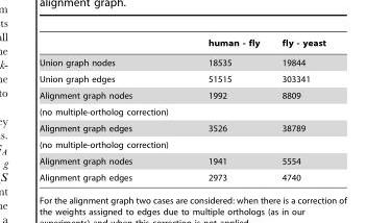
<table><thead><tr><td></td><td>human - fly</td><td>fly - yeast</td></tr></thead><tbody><tr><td>Union graph nodes</td><td>18535</td><td>19844</td></tr><tr><td>Union graph edges</td><td>51515</td><td>303341</td></tr><tr><td>Alignment graph nodes</td><td>1992</td><td>8809</td></tr><tr><td colspan="3">(no multiple-ortholog correction)</td></tr><tr><td>Alignment graph edges</td><td>3526</td><td>38789</td></tr><tr><td colspan="3">(no multiple-ortholog correction)</td></tr><tr><td>Alignment graph nodes</td><td>1941</td><td>5554</td></tr><tr><td>Alignment graph edges</td><td>2973</td><td>4740</td></tr></tbody></table>